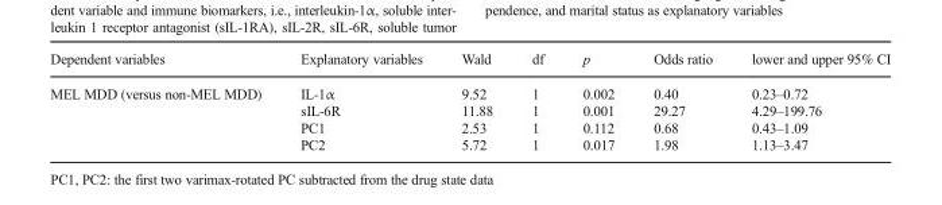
<table><thead><tr><td>Dependent variables</td><td>Explanatory variables</td><td>Wald</td><td>df</td><td>p</td><td>Odds ratio</td><td>lower and upper 95% CI</td></tr></thead><tbody><tr><td>MEL MDD (versus non-MEL MDD)</td><td>IL-1α sIL-6R PC1 PC2</td><td>9.52 11.88 2.53 5.72</td><td>1 1 1 1</td><td>0.002 0.001 0.112 0.017</td><td>0.40 29.27 0.68 1.98</td><td>0.23–0.72 4.29–199.76 0.43–1.09 1.13–3.47</td></tr></tbody></table>